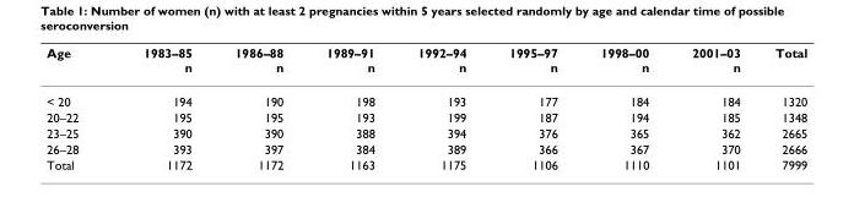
<table><thead><tr><td>Age</td><td>1983–85 n</td><td>1986–88 n</td><td>1989–91 n</td><td>1992–94 n</td><td>1995–97 n</td><td>1998–00 n</td><td>2001–03 n</td><td>Total</td></tr></thead><tbody><tr><td>&lt; 20</td><td>194</td><td>190</td><td>198</td><td>193</td><td>177</td><td>184</td><td>184</td><td>1320</td></tr><tr><td>20–22</td><td>195</td><td>195</td><td>193</td><td>199</td><td>187</td><td>194</td><td>185</td><td>1348</td></tr><tr><td>23–25</td><td>390</td><td>390</td><td>388</td><td>394</td><td>376</td><td>365</td><td>362</td><td>2665</td></tr><tr><td>26–28</td><td>393</td><td>397</td><td>384</td><td>389</td><td>366</td><td>367</td><td>370</td><td>2666</td></tr><tr><td>Total</td><td>1172</td><td>1172</td><td>1163</td><td>1175</td><td>1106</td><td>1110</td><td>1101</td><td>7999</td></tr></tbody></table>